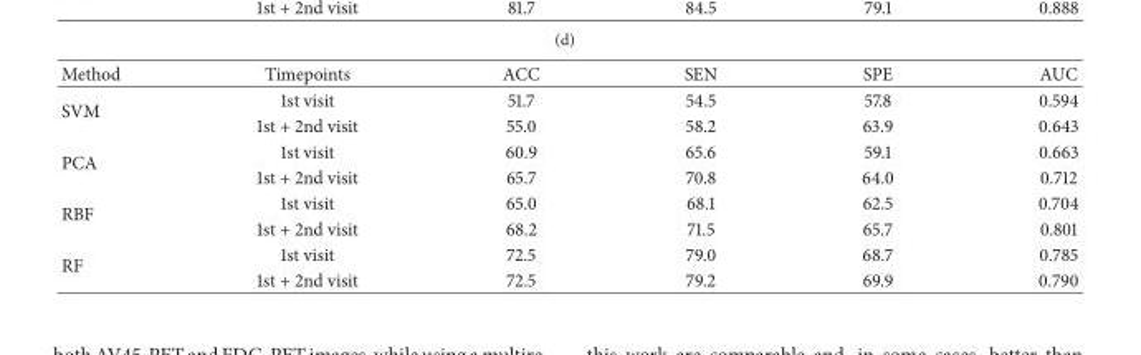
<table><thead><tr><td>Method</td><td>Timepoints</td><td>ACC</td><td>SEN</td><td>SPE</td><td>AUC</td></tr></thead><tbody><tr><td rowspan="2">SVM</td><td>1st visit</td><td>51.7</td><td>54.5</td><td>57.8</td><td>0.594</td></tr><tr><td>1st + 2nd visit</td><td>55.0</td><td>58.2</td><td>63.9</td><td>0.643</td></tr><tr><td rowspan="2">PCA</td><td>1st visit</td><td>60.9</td><td>65.6</td><td>59.1</td><td>0.663</td></tr><tr><td>1st + 2nd visit</td><td>65.7</td><td>70.8</td><td>64.0</td><td>0.712</td></tr><tr><td rowspan="2">RBF</td><td>1st visit</td><td>65.0</td><td>68.1</td><td>62.5</td><td>0.704</td></tr><tr><td>1st + 2nd visit</td><td>68.2</td><td>71.5</td><td>65.7</td><td>0.801</td></tr><tr><td rowspan="2">RF</td><td>1st visit</td><td>72.5</td><td>79.0</td><td>68.7</td><td>0.785</td></tr><tr><td>1st + 2nd visit</td><td>72.5</td><td>79.2</td><td>69.9</td><td>0.790</td></tr></tbody></table>